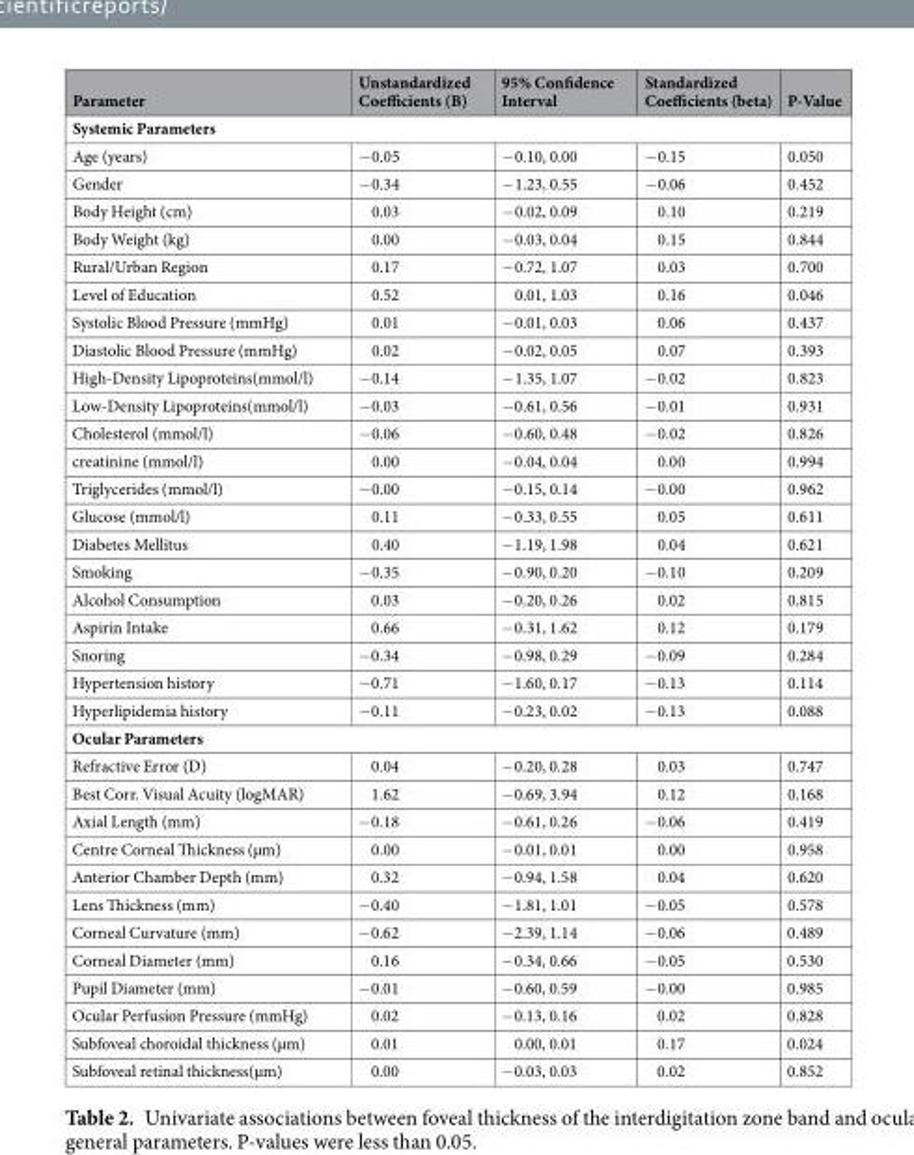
<table><thead><tr><td>Parameter</td><td>Unstandardized Coefficients (B)</td><td>95% Confidence Interval</td><td>Standardized Coefficients (beta)</td><td>P-Value</td></tr></thead><tbody><tr><td colspan="5">Systemic Parameters</td></tr><tr><td>Age (years)</td><td>−0.05</td><td>−0.10, 0.00</td><td>−0.15</td><td>0.050</td></tr><tr><td>Gender</td><td>−0.34</td><td>−1.23, 0.55</td><td>−0.06</td><td>0.452</td></tr><tr><td>Body Height (cm)</td><td>0.03</td><td>−0.02, 0.09</td><td>0.10</td><td>0.219</td></tr><tr><td>Body Weight (kg)</td><td>0.00</td><td>−0.03, 0.04</td><td>0.15</td><td>0.844</td></tr><tr><td>Rural/Urban Region</td><td>0.17</td><td>−0.72, 1.07</td><td>0.03</td><td>0.700</td></tr><tr><td>Level of Education</td><td>0.52</td><td>0.01, 1.03</td><td>0.16</td><td>0.046</td></tr><tr><td>Systolic Blood Pressure (mmHg)</td><td>0.01</td><td>−0.01, 0.03</td><td>0.06</td><td>0.437</td></tr><tr><td>Diastolic Blood Pressure (mmHg)</td><td>0.02</td><td>−0.02, 0.05</td><td>0.07</td><td>0.393</td></tr><tr><td>High-Density Lipoproteins(mmol/l)</td><td>−0.14</td><td>−1.35, 1.07</td><td>−0.02</td><td>0.823</td></tr><tr><td>Low-Density Lipoproteins(mmol/l)</td><td>−0.03</td><td>−0.61, 0.56</td><td>−0.01</td><td>0.931</td></tr><tr><td>Cholesterol (mmol/l)</td><td>−0.06</td><td>−0.60, 0.48</td><td>−0.02</td><td>0.826</td></tr><tr><td>creatinine (mmol/l)</td><td>0.00</td><td>−0.04, 0.04</td><td>0.00</td><td>0.994</td></tr><tr><td>Triglycerides (mmol/l)</td><td>−0.00</td><td>−0.15, 0.14</td><td>−0.00</td><td>0.962</td></tr><tr><td>Glucose (mmol/l)</td><td>0.11</td><td>−0.33, 0.55</td><td>0.05</td><td>0.611</td></tr><tr><td>Diabetes Mellitus</td><td>0.40</td><td>−1.19, 1.98</td><td>0.04</td><td>0.621</td></tr><tr><td>Smoking</td><td>−0.35</td><td>−0.90, 0.20</td><td>−0.10</td><td>0.209</td></tr><tr><td>Alcohol Consumption</td><td>0.03</td><td>−0.20, 0.26</td><td>0.02</td><td>0.815</td></tr><tr><td>Aspirin Intake</td><td>0.66</td><td>−0.31, 1.62</td><td>0.12</td><td>0.179</td></tr><tr><td>Snoring</td><td>−0.34</td><td>−0.98, 0.29</td><td>−0.09</td><td>0.284</td></tr><tr><td>Hypertension history</td><td>−0.71</td><td>−1.60, 0.17</td><td>−0.13</td><td>0.114</td></tr><tr><td>Hyperlipidemia history</td><td>−0.11</td><td>−0.23, 0.02</td><td>−0.13</td><td>0.088</td></tr><tr><td colspan="5">Ocular Parameters</td></tr><tr><td>Refractive Error (D)</td><td>0.04</td><td>−0.20, 0.28</td><td>0.03</td><td>0.747</td></tr><tr><td>Best Corr. Visual Acuity (logMAR)</td><td>1.62</td><td>−0.69, 3.94</td><td>0.12</td><td>0.168</td></tr><tr><td>Axial Length (mm)</td><td>−0.18</td><td>−0.61, 0.26</td><td>−0.06</td><td>0.419</td></tr><tr><td>Centre Corneal Thickness (µm)</td><td>0.00</td><td>−0.01, 0.01</td><td>0.00</td><td>0.958</td></tr><tr><td>Anterior Chamber Depth (mm)</td><td>0.32</td><td>−0.94, 1.58</td><td>0.04</td><td>0.620</td></tr><tr><td>Lens Thickness (mm)</td><td>−0.40</td><td>−1.81, 1.01</td><td>−0.05</td><td>0.578</td></tr><tr><td>Corneal Curvature (mm)</td><td>−0.62</td><td>−2.39, 1.14</td><td>−0.06</td><td>0.489</td></tr><tr><td>Corneal Diameter (mm)</td><td>0.16</td><td>−0.34, 0.66</td><td>−0.05</td><td>0.530</td></tr><tr><td>Pupil Diameter (mm)</td><td>−0.01</td><td>−0.60, 0.59</td><td>−0.00</td><td>0.985</td></tr><tr><td>Ocular Perfusion Pressure (mmHg)</td><td>0.02</td><td>−0.13, 0.16</td><td>0.02</td><td>0.828</td></tr><tr><td>Subfoveal choroidal thickness (µm)</td><td>0.01</td><td>0.00, 0.01</td><td>0.17</td><td>0.024</td></tr><tr><td>Subfoveal retinal thickness(µm)</td><td>0.00</td><td>−0.03, 0.03</td><td>0.02</td><td>0.852</td></tr></tbody></table>